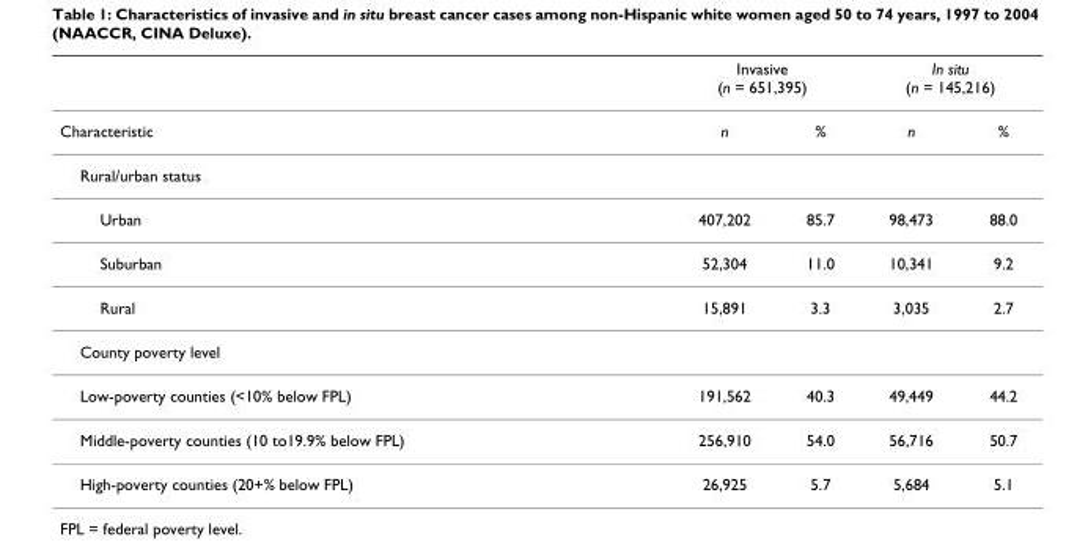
<table><thead><tr><td rowspan="2">Characteristic</td><td colspan="2">Invasive (n = 651,395)</td><td colspan="2">In situ (n = 145,216)</td></tr><tr><td>n</td><td>%</td><td>n</td><td>%</td></tr></thead><tbody><tr><td colspan="5">Rural/urban status</td></tr><tr><td>Urban</td><td>407,202</td><td>85.7</td><td>98,473</td><td>88.0</td></tr><tr><td>Suburban</td><td>52,304</td><td>11.0</td><td>10,341</td><td>9.2</td></tr><tr><td>Rural</td><td>15,891</td><td>3.3</td><td>3,035</td><td>2.7</td></tr><tr><td colspan="5">County poverty level</td></tr><tr><td>Low-poverty counties (&lt;10% below FPL)</td><td>191,562</td><td>40.3</td><td>49,449</td><td>44.2</td></tr><tr><td>Middle-poverty counties (10 to19.9% below FPL)</td><td>256,910</td><td>54.0</td><td>56,716</td><td>50.7</td></tr><tr><td>High-poverty counties (20+% below FPL)</td><td>26,925</td><td>5.7</td><td>5,684</td><td>5.1</td></tr></tbody></table>